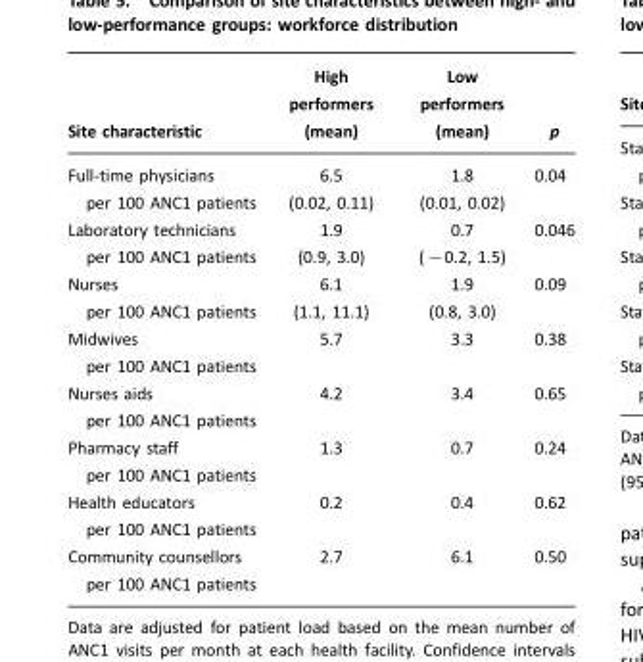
<table><thead><tr><td>Site characteristic</td><td>High performers (mean)</td><td>Low performers (mean)</td><td>p</td></tr></thead><tbody><tr><td>Full-time physicians per 100 ANC1 patients</td><td>6.5 (0.02, 0.11)</td><td>1.8 (0.01, 0.02)</td><td>0.04</td></tr><tr><td>Laboratory technicians per 100 ANC1 patients</td><td>1.9 (0.9, 3.0)</td><td>0.7 (−0.2, 1.5)</td><td>0.046</td></tr><tr><td>Nurses per 100 ANC1 patients</td><td>6.1 (1.1, 11.1)</td><td>1.9 (0.8, 3.0)</td><td>0.09</td></tr><tr><td>Midwives</td><td>5.7</td><td>3.3</td><td>0.38</td></tr><tr><td colspan="4">per 100 ANC1 patients</td></tr><tr><td>Nurses aids</td><td>4.2</td><td>3.4</td><td>0.65</td></tr><tr><td colspan="4">per 100 ANC1 patients</td></tr><tr><td>Pharmacy staff</td><td>1.3</td><td>0.7</td><td>0.24</td></tr><tr><td colspan="4">per 100 ANC1 patients</td></tr><tr><td>Health educators</td><td>0.2</td><td>0.4</td><td>0.62</td></tr><tr><td colspan="4">per 100 ANC1 patients</td></tr><tr><td>Community counsellors per 100 ANC1 patients</td><td>2.7</td><td>6.1</td><td>0.50</td></tr></tbody></table>